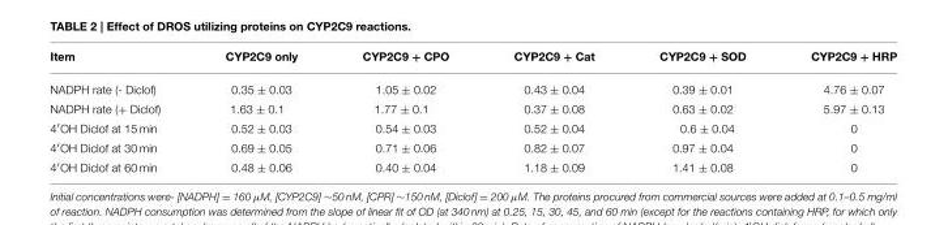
<table><thead><tr><td>Item</td><td>CYP2C9 only</td><td>CYP2C9 + CPO</td><td>CYP2C9 + Cat</td><td>CYP2C9 + SOD</td><td>CYP2C9 + HRP</td></tr></thead><tbody><tr><td>NADPH rate (- Diclof)</td><td>0.35 ± 0.03</td><td>1.05 ± 0.02</td><td>0.43 ± 0.04</td><td>0.39 ± 0.01</td><td>4.76 ± 0.07</td></tr><tr><td>NADPH rate (+ Diclof)</td><td>1.63 ± 0.1</td><td>1.77 ± 0.1</td><td>0.37 ± 0.08</td><td>0.63 ± 0.02</td><td>5.97 ± 0.13</td></tr><tr><td>4′OH Diclof at 15 min</td><td>0.52 ± 0.03</td><td>0.54 ± 0.03</td><td>0.52 ± 0.04</td><td>0.6 ± 0.04</td><td>0</td></tr><tr><td>4′OH Diclof at 30 min</td><td>0.69 ± 0.05</td><td>0.71 ± 0.06</td><td>0.82 ± 0.07</td><td>0.97 ± 0.04</td><td>0</td></tr><tr><td>4′OH Diclof at 60 min</td><td>0.48 ± 0.06</td><td>0.40 ± 0.04</td><td>1.18 ± 0.09</td><td>1.41 ± 0.08</td><td>0</td></tr></tbody></table>